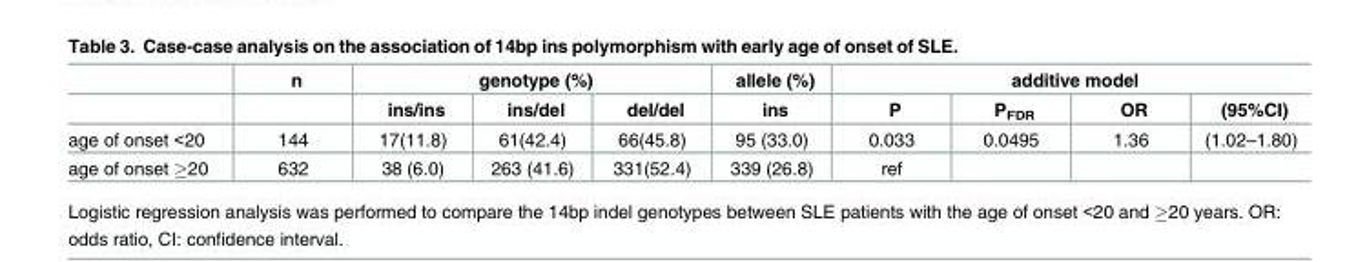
<table><thead><tr><td rowspan="2"></td><td rowspan="2">n</td><td colspan="3">genotype (%)</td><td rowspan="2">allele (%) ins</td><td colspan="4">additive model</td></tr><tr><td>ins/ins</td><td>ins/del</td><td>del/del</td><td>P</td><td>P<sub>FDR</sub></td><td>OR</td><td>(95%CI)</td></tr></thead><tbody><tr><td>age of onset &lt;20</td><td>144</td><td>17(11.8)</td><td>61(42.4)</td><td>66(45.8)</td><td>95 (33.0)</td><td>0.033</td><td>0.0495</td><td>1.36</td><td>(1.02–1.80)</td></tr><tr><td>age of onset ≥20</td><td>632</td><td>38 (6.0)</td><td>263 (41.6)</td><td>331(52.4)</td><td>339 (26.8)</td><td>ref</td><td></td><td></td><td></td></tr></tbody></table>